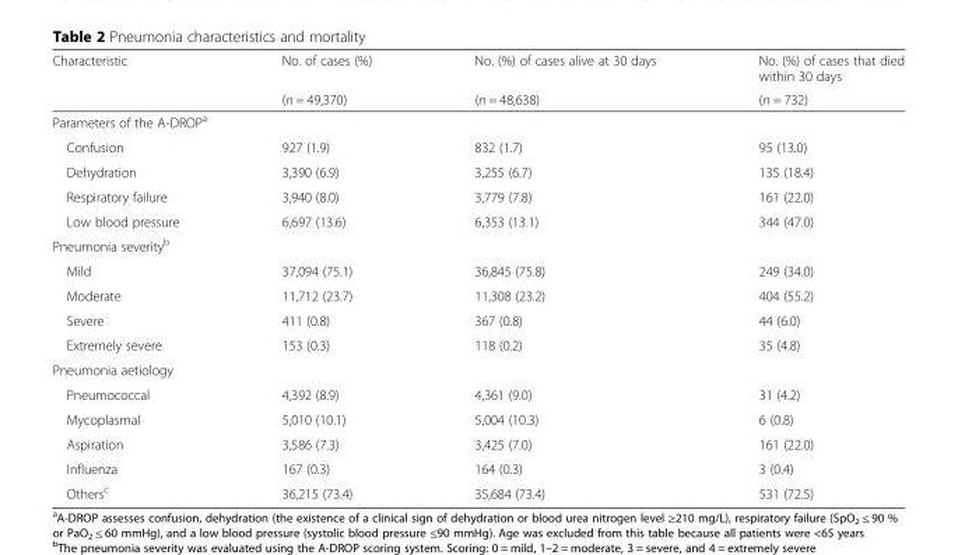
<table><thead><tr><td rowspan="2">Characteristic</td><td rowspan="2">No. of cases (%) (n = 49,370)</td><td rowspan="2">No. (%) of cases alive at 30 days (n = 48,638)</td><td rowspan="2">No. (%) of cases that died within 30 days (n = 732)</td></tr><tr></tr></thead><tbody><tr><td colspan="4">Parameters of the A-DROP<sup>a</sup></td></tr><tr><td>Confusion</td><td>927 (1.9)</td><td>832 (1.7)</td><td>95 (13.0)</td></tr><tr><td>Dehydration</td><td>3,390 (6.9)</td><td>3,255 (6.7)</td><td>135 (18.4)</td></tr><tr><td>Respiratory failure</td><td>3,940 (8.0)</td><td>3,779 (7.8)</td><td>161 (22.0)</td></tr><tr><td>Low blood pressure</td><td>6,697 (13.6)</td><td>6,353 (13.1)</td><td>344 (47.0)</td></tr><tr><td colspan="4">Pneumonia severity<sup>b</sup></td></tr><tr><td>Mild</td><td>37,094 (75.1)</td><td>36,845 (75.8)</td><td>249 (34.0)</td></tr><tr><td>Moderate</td><td>11,712 (23.7)</td><td>11,308 (23.2)</td><td>404 (55.2)</td></tr><tr><td>Severe</td><td>411 (0.8)</td><td>367 (0.8)</td><td>44 (6.0)</td></tr><tr><td>Extremely severe</td><td>153 (0.3)</td><td>118 (0.2)</td><td>35 (4.8)</td></tr><tr><td colspan="4">Pneumonia aetiology</td></tr><tr><td>Pneumococcal</td><td>4,392 (8.9)</td><td>4,361 (9.0)</td><td>31 (4.2)</td></tr><tr><td>Mycoplasmal</td><td>5,010 (10.1)</td><td>5,004 (10.3)</td><td>6 (0.8)</td></tr><tr><td>Aspiration</td><td>3,586 (7.3)</td><td>3,425 (7.0)</td><td>161 (22.0)</td></tr><tr><td>Influenza</td><td>167 (0.3)</td><td>164 (0.3)</td><td>3 (0.4)</td></tr><tr><td>Others<sup>c</sup></td><td>36,215 (73.4)</td><td>35,684 (73.4)</td><td>531 (72.5)</td></tr></tbody></table>